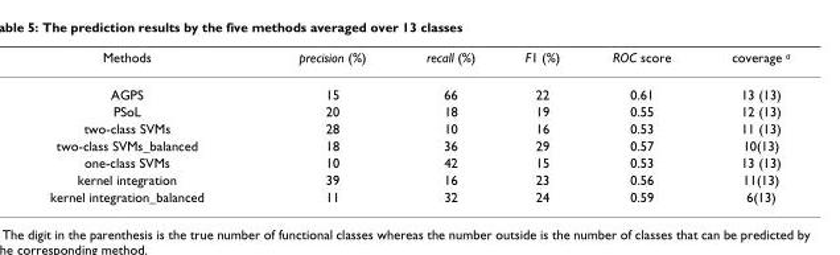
<table><thead><tr><td>Methods</td><td>precision (%)</td><td>recall (%)</td><td>F1 (%)</td><td>ROC score</td><td>coverage <sup>a</sup></td></tr></thead><tbody><tr><td>AGPS</td><td>15</td><td>66</td><td>22</td><td>0.61</td><td>13 (13)</td></tr><tr><td>PSoL</td><td>20</td><td>18</td><td>19</td><td>0.55</td><td>12 (13)</td></tr><tr><td>two-class SVMs</td><td>28</td><td>10</td><td>16</td><td>0.53</td><td>11 (13)</td></tr><tr><td>two-class SVMs_balanced</td><td>18</td><td>36</td><td>29</td><td>0.57</td><td>10(13)</td></tr><tr><td>one-class SVMs</td><td>10</td><td>42</td><td>15</td><td>0.53</td><td>13 (13)</td></tr><tr><td>kernel integration</td><td>39</td><td>16</td><td>23</td><td>0.56</td><td>11(13)</td></tr><tr><td>kernel integration_balanced</td><td>11</td><td>32</td><td>24</td><td>0.59</td><td>6(13)</td></tr></tbody></table>